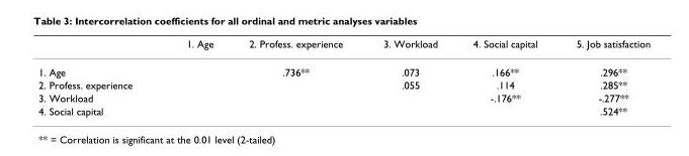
<table><thead><tr><td></td><td>1. Age</td><td>2. Profess. experience</td><td>3. Workload</td><td>4. Social capital</td><td>5. Job satisfaction</td></tr></thead><tbody><tr><td>1. Age</td><td></td><td>.736**</td><td>.073</td><td>.166**</td><td>.296**</td></tr><tr><td>2. Profess. experience</td><td></td><td></td><td>.055</td><td>.114</td><td>.285**</td></tr><tr><td>3. Workload</td><td></td><td></td><td></td><td>-.176**</td><td>-.277**</td></tr><tr><td>4. Social capital</td><td></td><td></td><td></td><td></td><td>.524**</td></tr></tbody></table>